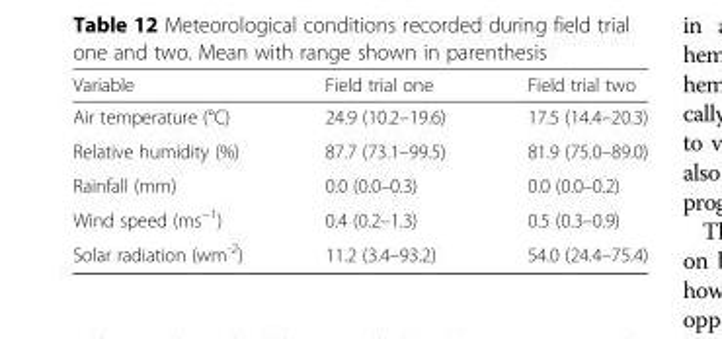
<table><thead><tr><td>Variable</td><td>Field trial one</td><td>Field trial two</td></tr></thead><tbody><tr><td>Air temperature (°C)</td><td>24.9 (10.2–19.6)</td><td>17.5 (14.4–20.3)</td></tr><tr><td>Relative humidity (%)</td><td>87.7 (73.1–99.5)</td><td>81.9 (75.0–89.0)</td></tr><tr><td>Rainfall (mm)</td><td>0.0 (0.0–0.3)</td><td>0.0 (0.0–0.2)</td></tr><tr><td>Wind speed (ms<sup>−1</sup>)</td><td>0.4 (0.2–1.3)</td><td>0.5 (0.3–0.9)</td></tr><tr><td>Solar radiation (wm<sup>-2</sup>)</td><td>11.2 (3.4–93.2)</td><td>54.0 (24.4–75.4)</td></tr></tbody></table>